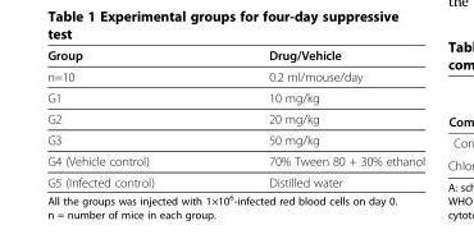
<table><thead><tr><td>Group</td><td>Drug/Vehicle</td></tr></thead><tbody><tr><td>n=10</td><td>0.2 ml/mouse/day</td></tr><tr><td>G1</td><td>10 mg/kg</td></tr><tr><td>G2</td><td>20 mg/kg</td></tr><tr><td>G3</td><td>50 mg/kg</td></tr><tr><td>G4 (Vehicle control)</td><td>70% Tween 80 + 30% ethanol</td></tr><tr><td>G5 (Infected control)</td><td>Distilled water</td></tr></tbody></table>